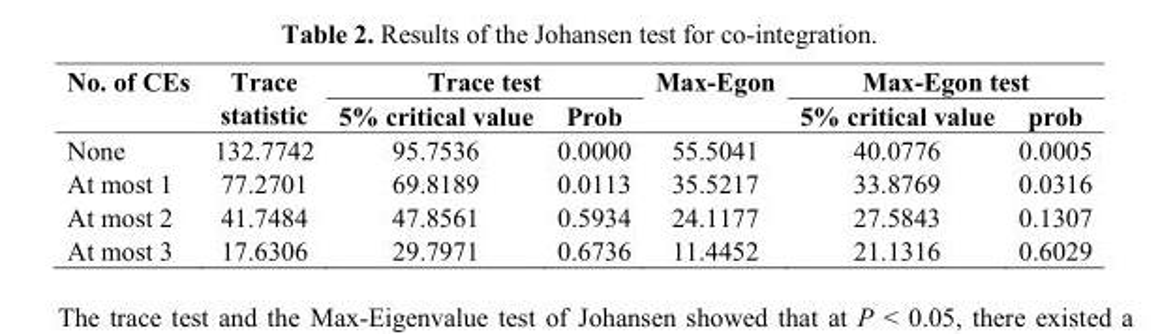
<table><thead><tr><td rowspan="2">No. of CEs</td><td rowspan="2">Trace statistic</td><td colspan="2">Trace test</td><td rowspan="2">Max-Egon</td><td colspan="2">Max-Egon test</td></tr><tr><td>5% critical value</td><td>Prob</td><td>5% critical value</td><td>prob</td></tr></thead><tbody><tr><td>None</td><td>132.7742</td><td>95.7536</td><td>0.0000</td><td>55.5041</td><td>40.0776</td><td>0.0005</td></tr><tr><td>At most 1</td><td>77.2701</td><td>69.8189</td><td>0.0113</td><td>35.5217</td><td>33.8769</td><td>0.0316</td></tr><tr><td>At most 2</td><td>41.7484</td><td>47.8561</td><td>0.5934</td><td>24.1177</td><td>27.5843</td><td>0.1307</td></tr><tr><td>At most 3</td><td>17.6306</td><td>29.7971</td><td>0.6736</td><td>11.4452</td><td>21.1316</td><td>0.6029</td></tr></tbody></table>